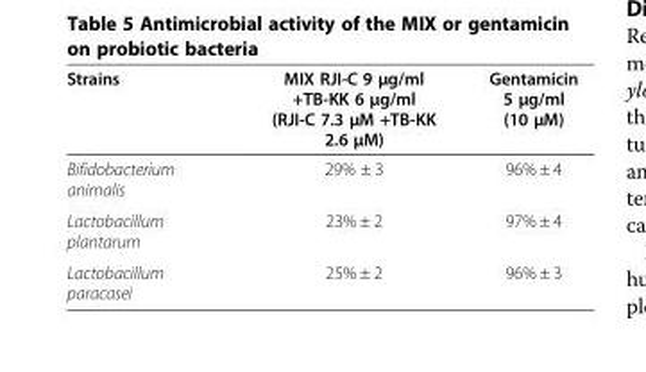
<table><thead><tr><td>Strains</td><td>MIX RJI-C 9 μg/ml +TB-KK 6 μg/ml (RJI-C 7.3 μM +TB-KK 2.6 μM)</td><td>Gentamicin 5 μg/ml (10 μM)</td></tr></thead><tbody><tr><td>Bifidobacterium animalis</td><td>29% ± 3</td><td>96% ± 4</td></tr><tr><td>Lactobacillum plantarum</td><td>23% ± 2</td><td>97% ± 4</td></tr><tr><td>Lactobacillum paracasei</td><td>25% ± 2</td><td>96% ± 3</td></tr></tbody></table>